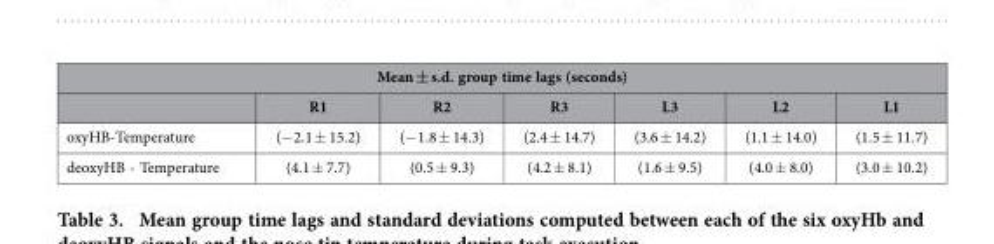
<table><thead><tr><td colspan="7">Mean ± s.d. group time lags (seconds)</td></tr><tr><td></td><td>R1</td><td>R2</td><td>R3</td><td>L3</td><td>L2</td><td>L1</td></tr></thead><tbody><tr><td>oxyHB-Temperature</td><td>(− 2.1 ± 15.2)</td><td>(− 1.8 ± 14.3)</td><td>(2.4 ± 14.7)</td><td>(3.6 ± 14.2)</td><td>(1.1 ± 14.0)</td><td>(1.5 ± 11.7)</td></tr><tr><td>deoxyHB - Temperature</td><td>(4.1 ± 7.7)</td><td>(0.5 ± 9.3)</td><td>(4.2 ± 8.1)</td><td>(1.6 ± 9.5)</td><td>(4.0 ± 8.0)</td><td>(3.0 ± 10.2)</td></tr></tbody></table>